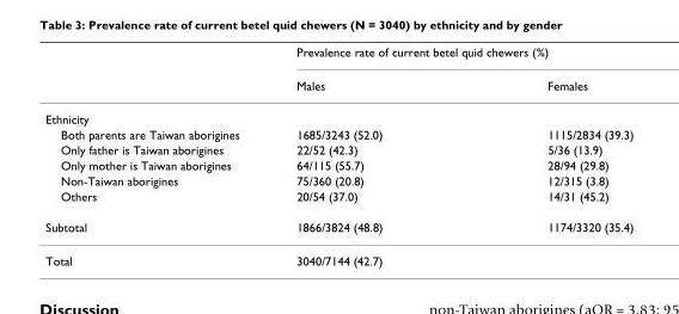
<table><thead><tr><td rowspan="2"></td><td colspan="2">Prevalence rate of current betel quid chewers (%)</td></tr><tr><td>Males</td><td>Females</td></tr></thead><tbody><tr><td colspan="3">Ethnicity</td></tr><tr><td>Both parents are Taiwan aborigines</td><td>1685/3243 (52.0)</td><td>1115/2834 (39.3)</td></tr><tr><td>Only father is Taiwan aborigines</td><td>22/52 (42.3)</td><td>5/36 (13.9)</td></tr><tr><td>Only mother is Taiwan aborigines</td><td>64/115 (55.7)</td><td>28/94 (29.8)</td></tr><tr><td>Non-Taiwan aborigines</td><td>75/360 (20.8)</td><td>12/315 (3.8)</td></tr><tr><td>Others</td><td>20/54 (37.0)</td><td>14/31 (45.2)</td></tr><tr><td>Subtotal</td><td>1866/3824 (48.8)</td><td>1174/3320 (35.4)</td></tr><tr><td>Total</td><td colspan="2">3040/7144 (42.7)</td></tr></tbody></table>